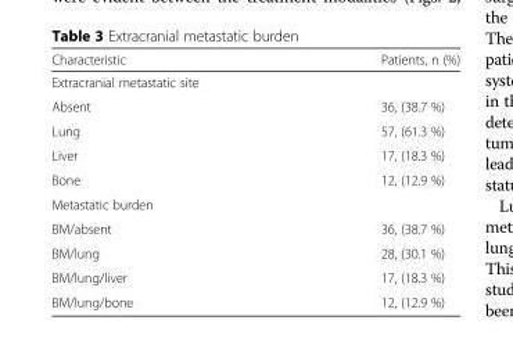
<table><thead><tr><td>Characteristic</td><td>Patients, n (%)</td></tr></thead><tbody><tr><td colspan="2">Extracranial metastatic site</td></tr><tr><td>Absent</td><td>36, (38.7 %)</td></tr><tr><td>Lung</td><td>57, (61.3 %)</td></tr><tr><td>Liver</td><td>17, (18.3 %)</td></tr><tr><td>Bone</td><td>12, (12.9 %)</td></tr><tr><td colspan="2">Metastatic burden</td></tr><tr><td>BM/absent</td><td>36, (38.7 %)</td></tr><tr><td>BM/lung</td><td>28, (30.1 %)</td></tr><tr><td>BM/lung/liver</td><td>17, (18.3 %)</td></tr><tr><td>BM/lung/bone</td><td>12, (12.9 %)</td></tr></tbody></table>